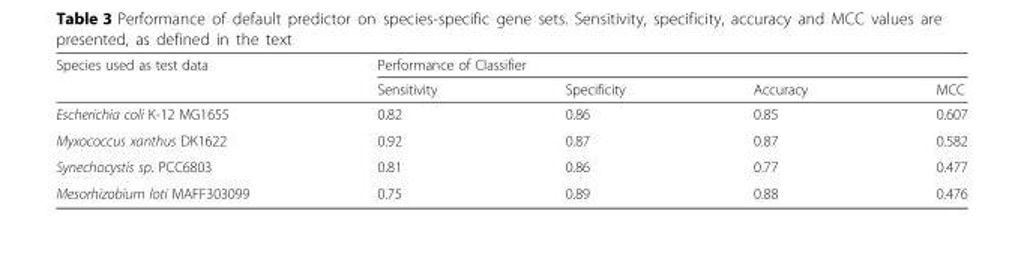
<table><thead><tr><td rowspan="2">Species used as test data</td><td colspan="4">Performance of Classifier</td></tr><tr><td>Sensitivity</td><td>Specificity</td><td>Accuracy</td><td>MCC</td></tr></thead><tbody><tr><td>Escherichia coli K-12 MG1655</td><td>0.82</td><td>0.86</td><td>0.85</td><td>0.607</td></tr><tr><td>Myxococcus xanthus DK1622</td><td>0.92</td><td>0.87</td><td>0.87</td><td>0.582</td></tr><tr><td>Synechocystis sp. PCC6803</td><td>0.81</td><td>0.86</td><td>0.77</td><td>0.477</td></tr><tr><td>Mesorhizobium loti MAFF303099</td><td>0.75</td><td>0.89</td><td>0.88</td><td>0.476</td></tr></tbody></table>